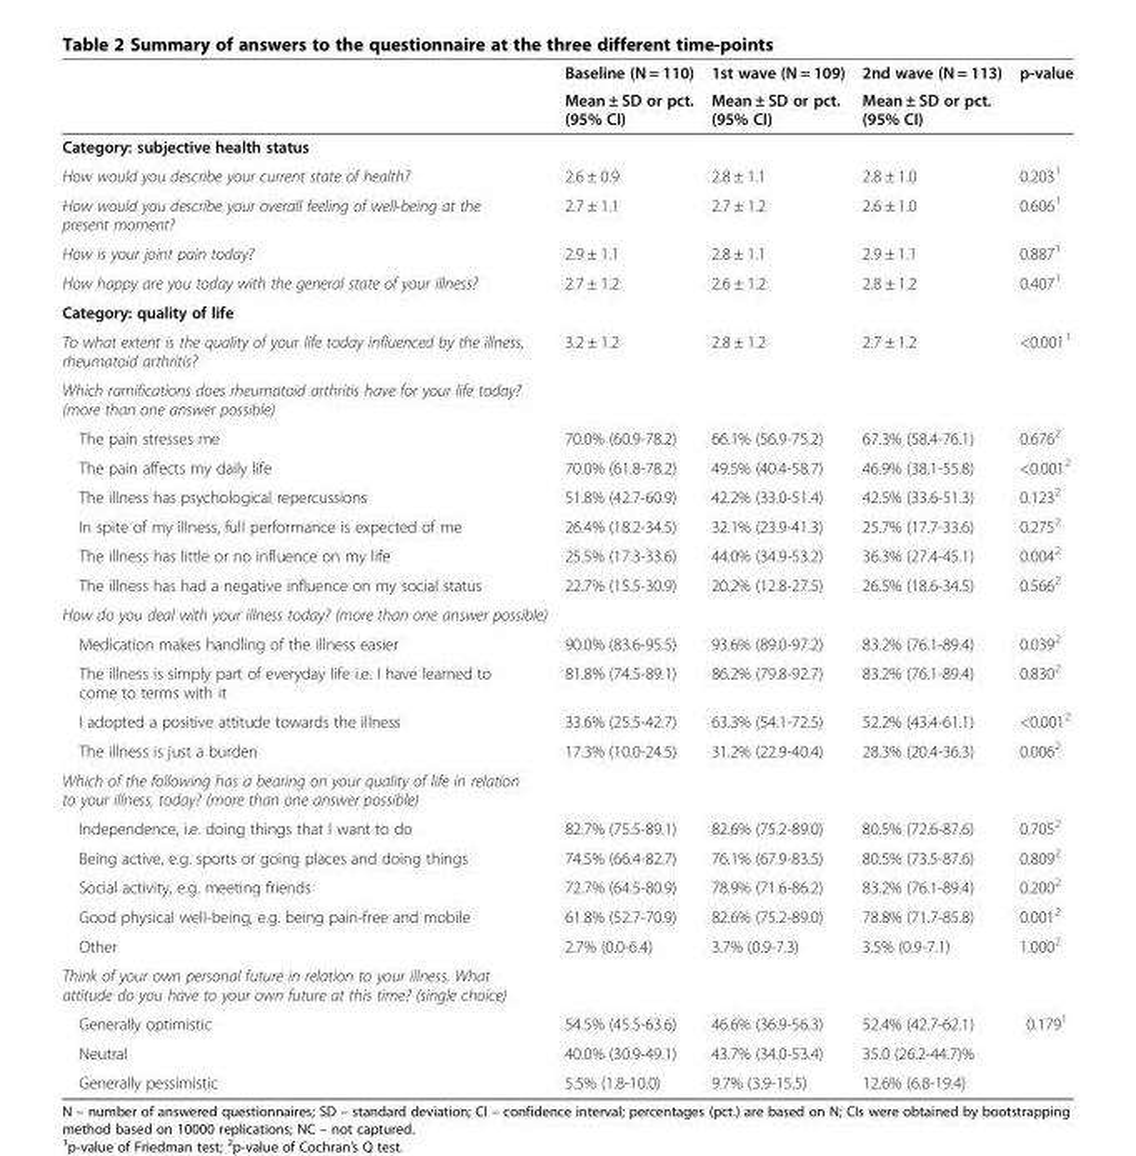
<table><thead><tr><td rowspan="2"></td><td rowspan="2">Baseline (N = 110) Mean ± SD or pct. (95% CI)</td><td rowspan="2">1st wave (N = 109) Mean ± SD or pct. (95% CI)</td><td rowspan="2">2nd wave (N = 113) Mean ± SD or pct. (95% CI)</td><td rowspan="2">p-value</td></tr><tr></tr></thead><tbody><tr><td colspan="5">Category: subjective health status</td></tr><tr><td>How would you describe your current state of health?</td><td>2.6 ± 0.9</td><td>2.8 ± 1.1</td><td>2.8 ± 1.0</td><td>0.203<sup>1</sup></td></tr><tr><td>How would you describe your overall feeling of well-being at the present moment?</td><td>2.7 ± 1.1</td><td>2.7 ± 1.2</td><td>2.6 ± 1.0</td><td>0.606<sup>1</sup></td></tr><tr><td>How is your joint pain today?</td><td>2.9 ± 1.1</td><td>2.8 ± 1.1</td><td>2.9 ± 1.1</td><td>0.887<sup>1</sup></td></tr><tr><td>How happy are you today with the general state of your illness?</td><td>2.7 ± 1.2</td><td>2.6 ± 1.2</td><td>2.8 ± 1.2</td><td>0.407<sup>1</sup></td></tr><tr><td colspan="5">Category: quality of life</td></tr><tr><td>To what extent is the quality of your life today influenced by the illness, rheumatoid arthritis?</td><td>3.2 ± 1.2</td><td>2.8 ± 1.2</td><td>2.7 ± 1.2</td><td>&lt;0.001<sup>1</sup></td></tr><tr><td colspan="5">Which ramifications does rheumatoid arthritis have for your life today? (more than one answer possible)</td></tr><tr><td>The pain stresses me</td><td>70.0% (60.9-78.2)</td><td>66.1% (56.9-75.2)</td><td>67.3% (58.4-76.1)</td><td>0.676<sup>2</sup></td></tr><tr><td>The pain affects my daily life</td><td>70.0% (61.8-78.2)</td><td>49.5% (40.4-58.7)</td><td>46.9% (38.1-55.8)</td><td>&lt;0.001<sup>2</sup></td></tr><tr><td>The illness has psychological repercussions</td><td>51.8% (42.7-60.9)</td><td>42.2% (33.0-51.4)</td><td>42.5% (33.6-51.3)</td><td>0.123<sup>2</sup></td></tr><tr><td>In spite of my illness, full performance is expected of me</td><td>26.4% (18.2-34.5)</td><td>32.1% (23.9-41.3)</td><td>25.7% (17.7-33.6)</td><td>0.275<sup>2</sup></td></tr><tr><td>The illness has little or no influence on my life</td><td>25.5% (17.3-33.6)</td><td>44.0% (34.9-53.2)</td><td>36.3% (27.4-45.1)</td><td>0.004<sup>2</sup></td></tr><tr><td>The illness has had a negative influence on my social status</td><td>22.7% (15.5-30.9)</td><td>20.2% (12.8-27.5)</td><td>26.5% (18.6-34.5)</td><td>0.566<sup>2</sup></td></tr><tr><td colspan="5">How do you deal with your illness today? (more than one answer possible)</td></tr><tr><td>Medication makes handling of the illness easier</td><td>90.0% (83.6-95.5)</td><td>93.6% (89.0-97.2)</td><td>83.2% (76.1-89.4)</td><td>0.039<sup>2</sup></td></tr><tr><td>The illness is simply part of everyday life i.e. I have learned to come to terms with it</td><td>81.8% (74.5-89.1)</td><td>86.2% (79.8-92.7)</td><td>83.2% (76.1-89.4)</td><td>0.830<sup>2</sup></td></tr><tr><td>I adopted a positive attitude towards the illness</td><td>33.6% (25.5-42.7)</td><td>63.3% (54.1-72.5)</td><td>52.2% (43.4-61.1)</td><td>&lt;0.001<sup>2</sup></td></tr><tr><td>The illness is just a burden</td><td>17.3% (10.0-24.5)</td><td>31.2% (22.9-40.4)</td><td>28.3% (20.4-36.3)</td><td>0.006<sup>2</sup></td></tr><tr><td colspan="5">Which of the following has a bearing on your quality of life in relation to your illness, today? (more than one answer possible)</td></tr><tr><td>Independence, i.e. doing things that I want to do</td><td>82.7% (75.5-89.1)</td><td>82.6% (75.2-89.0)</td><td>80.5% (72.6-87.6)</td><td>0.705<sup>2</sup></td></tr><tr><td>Being active, e.g. sports or going places and doing things</td><td>74.5% (66.4-82.7)</td><td>76.1% (67.9-83.5)</td><td>80.5% (73.5-87.6)</td><td>0.809<sup>2</sup></td></tr><tr><td>Social activity, e.g. meeting friends</td><td>72.7% (64.5-80.9)</td><td>78.9% (71.6-86.2)</td><td>83.2% (76.1-89.4)</td><td>0.200<sup>2</sup></td></tr><tr><td>Good physical well-being, e.g. being pain-free and mobile</td><td>61.8% (52.7-70.9)</td><td>82.6% (75.2-89.0)</td><td>78.8% (71.7-85.8)</td><td>0.001<sup>2</sup></td></tr><tr><td>Other</td><td>2.7% (0.0-6.4)</td><td>3.7% (0.9-7.3)</td><td>3.5% (0.9-7.1)</td><td>1.000<sup>2</sup></td></tr><tr><td colspan="5">Think of your own personal future in relation to your illness. What attitude do you have to your own future at this time? (single choice)</td></tr><tr><td>Generally optimistic</td><td>54.5% (45.5-63.6)</td><td>46.6% (36.9-56.3)</td><td>52.4% (42.7-62.1)</td><td rowspan="3">0.179<sup>1</sup></td></tr><tr><td>Neutral</td><td>40.0% (30.9-49.1)</td><td>43.7% (34.0-53.4)</td><td>35.0 (26.2-44.7)%</td></tr><tr><td>Generally pessimistic</td><td>5.5% (1.8-10.0)</td><td>9.7% (3.9-15.5)</td><td>12.6% (6.8-19.4)</td></tr></tbody></table>